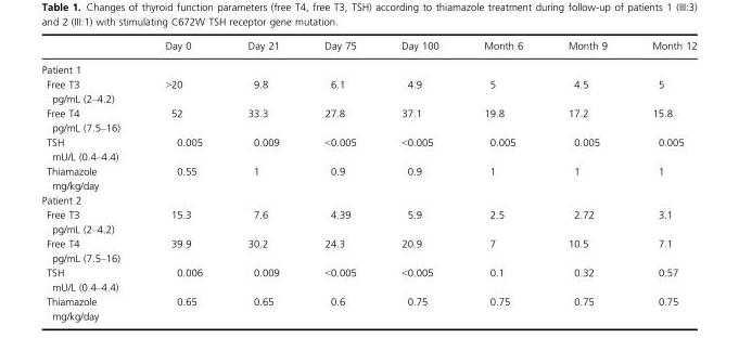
<table><thead><tr><td></td><td>Day 0</td><td>Day 21</td><td>Day 75</td><td>Day 100</td><td>Month 6</td><td>Month 9</td><td>Month 12</td></tr></thead><tbody><tr><td colspan="8">Patient 1</td></tr><tr><td>Free T3 pg/mL (2–4.2)</td><td>&gt;20</td><td>9.8</td><td>6.1</td><td>4.9</td><td>5</td><td>4.5</td><td>5</td></tr><tr><td>Free T4 pg/mL (7.5–16)</td><td>52</td><td>33.3</td><td>27.8</td><td>37.1</td><td>19.8</td><td>17.2</td><td>15.8</td></tr><tr><td>TSH mU/L (0.4–4.4)</td><td>0.005</td><td>0.009</td><td>&lt;0.005</td><td>&lt;0.005</td><td>0.005</td><td>0.005</td><td>0.005</td></tr><tr><td>Thiamazole mg/kg/day</td><td>0.55</td><td>1</td><td>0.9</td><td>0.9</td><td>1</td><td>1</td><td>1</td></tr><tr><td colspan="8">Patient 2</td></tr><tr><td>Free T3 pg/mL (2–4.2)</td><td>15.3</td><td>7.6</td><td>4.39</td><td>5.9</td><td>2.5</td><td>2.72</td><td>3.1</td></tr><tr><td>Free T4 pg/mL (7.5–16)</td><td>39.9</td><td>30.2</td><td>24.3</td><td>20.9</td><td>7</td><td>10.5</td><td>7.1</td></tr><tr><td>TSH mU/L (0.4–4.4)</td><td>0.006</td><td>0.009</td><td>&lt;0.005</td><td>&lt;0.005</td><td>0.1</td><td>0.32</td><td>0.57</td></tr><tr><td>Thiamazole mg/kg/day</td><td>0.65</td><td>0.65</td><td>0.6</td><td>0.75</td><td>0.75</td><td>0.75</td><td>0.75</td></tr></tbody></table>